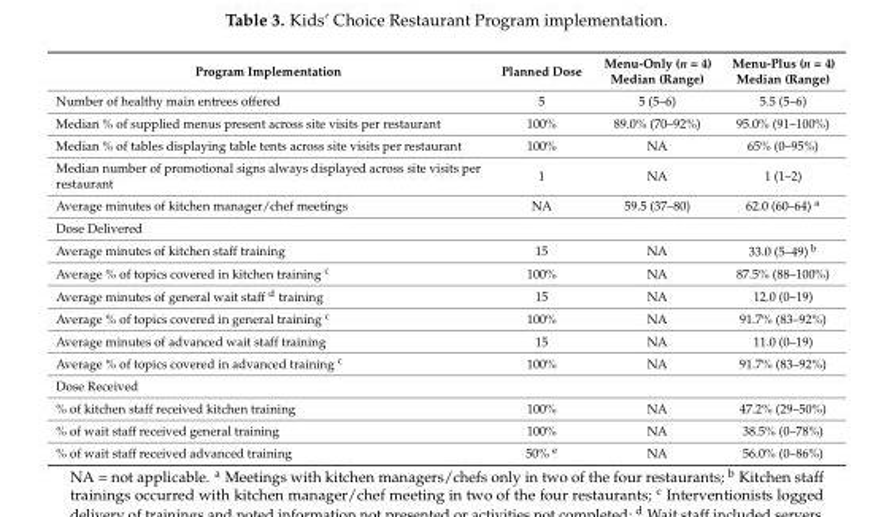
<table><thead><tr><td>Program Implementation</td><td>Planned Dose</td><td>Menu-Only (n = 4) Median (Range)</td><td>Menu-Plus (n = 4) Median (Range)</td></tr></thead><tbody><tr><td>Number of healthy main entrees offered</td><td>5</td><td>5 (5–6)</td><td>5.5 (5–6)</td></tr><tr><td>Median % of supplied menus present across site visits per restaurant</td><td>100%</td><td>89.0% (70–92%)</td><td>95.0% (91–100%)</td></tr><tr><td>Median % of tables displaying table tents across site visits per restaurant</td><td>100%</td><td>NA</td><td>65% (0–95%)</td></tr><tr><td>Median number of promotional signs always displayed across site visits per restaurant</td><td>1</td><td>NA</td><td>1 (1–2)</td></tr><tr><td>Average minutes of kitchen manager/chef meetings</td><td>NA</td><td>59.5 (37–80)</td><td>62.0 (60–64) <sup>a</sup></td></tr><tr><td colspan="4">Dose Delivered</td></tr><tr><td>Average minutes of kitchen staff training</td><td>15</td><td>NA</td><td>33.0 (5–49) <sup>b</sup></td></tr><tr><td>Average % of topics covered in kitchen training <sup>c</sup></td><td>100%</td><td>NA</td><td>87.5% (88–100%)</td></tr><tr><td>Average minutes of general wait staff <sup>d</sup> training</td><td>15</td><td>NA</td><td>12.0 (0–19)</td></tr><tr><td>Average % of topics covered in general training <sup>c</sup></td><td>100%</td><td>NA</td><td>91.7% (83–92%)</td></tr><tr><td>Average minutes of advanced wait staff training</td><td>15</td><td>NA</td><td>11.0 (0–19)</td></tr><tr><td>Average % of topics covered in advanced training <sup>c</sup></td><td>100%</td><td>NA</td><td>91.7% (83–92%)</td></tr><tr><td colspan="4">Dose Received</td></tr><tr><td>% of kitchen staff received kitchen training</td><td>100%</td><td>NA</td><td>47.2% (29–50%)</td></tr><tr><td>% of wait staff received general training</td><td>100%</td><td>NA</td><td>38.5% (0–78%)</td></tr><tr><td>% of wait staff received advanced training</td><td>50% <sup>e</sup></td><td>NA</td><td>56.0% (0–86%)</td></tr></tbody></table>